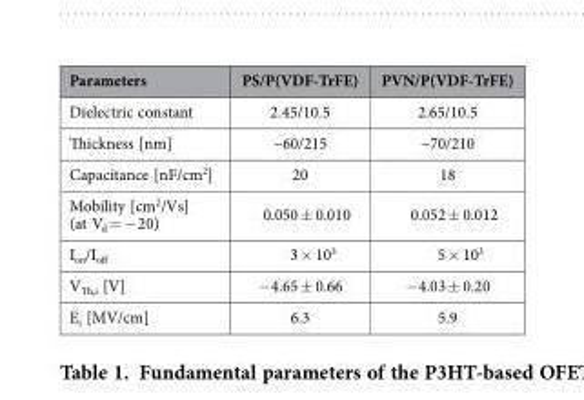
<table><thead><tr><td>Parameters</td><td>PS/P(VDF-TrFE)</td><td>PVN/P(VDF-TrFE)</td></tr></thead><tbody><tr><td>Dielectric constant</td><td>2.45/10.5</td><td>2.65/10.5</td></tr><tr><td>Thickness [nm]</td><td>~60/215</td><td>~70/210</td></tr><tr><td>Capacitance [nF/cm<sup>2</sup>]</td><td>20</td><td>18</td></tr><tr><td>Mobility [cm<sup>2</sup>/Vs] (at V<sub>d</sub> = − 20)</td><td>0.050 ± 0.010</td><td>0.052 ± 0.012</td></tr><tr><td>I<sub>on</sub>/I<sub>off</sub></td><td>3 × 10<sup>3</sup></td><td>5 × 10<sup>3</sup></td></tr><tr><td>V<sub>Th,i</sub> [V]</td><td>− 4.65 ± 0.66</td><td>− 4.03 ± 0.20</td></tr><tr><td>E<sub>i</sub> [MV/cm]</td><td>6.3</td><td>5.9</td></tr></tbody></table>